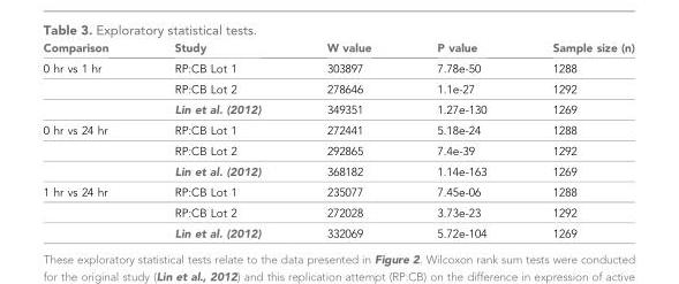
<table><thead><tr><td>Comparison</td><td>Study</td><td>W value</td><td>P value</td><td>Sample size (n)</td></tr></thead><tbody><tr><td rowspan="3">0 hr vs 1 hr</td><td>RP:CB Lot 1</td><td>303897</td><td>7.78e-50</td><td>1288</td></tr><tr><td>RP:CB Lot 2</td><td>278646</td><td>1.1e-27</td><td>1292</td></tr><tr><td>Lin et al. (2012)</td><td>349351</td><td>1.27e-130</td><td>1269</td></tr><tr><td rowspan="3">0 hr vs 24 hr</td><td>RP:CB Lot 1</td><td>272441</td><td>5.18e-24</td><td>1288</td></tr><tr><td>RP:CB Lot 2</td><td>292865</td><td>7.4e-39</td><td>1292</td></tr><tr><td>Lin et al. (2012)</td><td>368182</td><td>1.14e-163</td><td>1269</td></tr><tr><td rowspan="3">1 hr vs 24 hr</td><td>RP:CB Lot 1</td><td>235077</td><td>7.45e-06</td><td>1288</td></tr><tr><td>RP:CB Lot 2</td><td>272028</td><td>3.73e-23</td><td>1292</td></tr><tr><td>Lin et al. (2012)</td><td>332069</td><td>5.72e-104</td><td>1269</td></tr></tbody></table>